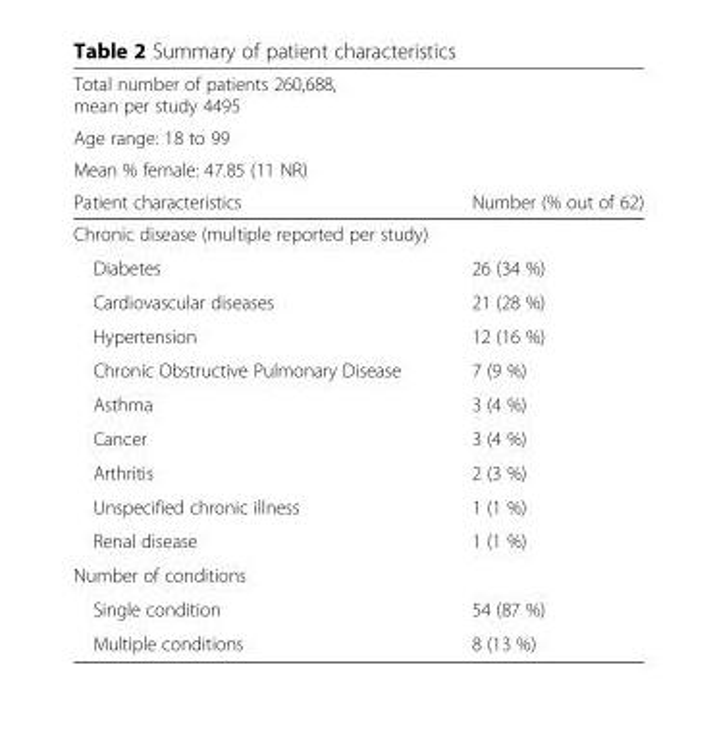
<table><thead><tr><td rowspan="4">Total number of patients 260,688, mean per study 4495 Age range: 18 to 99 Mean % female: 47.85 (11 NR) Patient characteristics</td><td rowspan="4">Number (% out of 62)</td></tr><tr></tr><tr></tr><tr></tr></thead><tbody><tr><td colspan="2">Chronic disease (multiple reported per study)</td></tr><tr><td>Diabetes</td><td>26 (34 %)</td></tr><tr><td>Cardiovascular diseases</td><td>21 (28 %)</td></tr><tr><td>Hypertension</td><td>12 (16 %)</td></tr><tr><td>Chronic Obstructive Pulmonary Disease</td><td>7 (9 %)</td></tr><tr><td>Asthma</td><td>3 (4 %)</td></tr><tr><td>Cancer</td><td>3 (4 %)</td></tr><tr><td>Arthritis</td><td>2 (3 %)</td></tr><tr><td>Unspecified chronic illness</td><td>1 (1 %)</td></tr><tr><td>Renal disease</td><td>1 (1 %)</td></tr><tr><td colspan="2">Number of conditions</td></tr><tr><td>Single condition</td><td>54 (87 %)</td></tr><tr><td>Multiple conditions</td><td>8 (13 %)</td></tr></tbody></table>